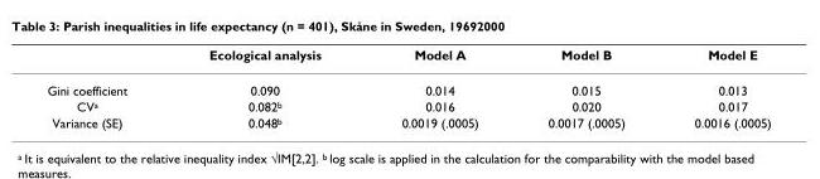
<table><thead><tr><td></td><td>Ecological analysis</td><td>Model A</td><td>Model B</td><td>Model E</td></tr></thead><tbody><tr><td>Gini coefficient</td><td>0.090</td><td>0.014</td><td>0.015</td><td>0.013</td></tr><tr><td>CV<sup>a</sup></td><td>0.082<sup>b</sup></td><td>0.016</td><td>0.020</td><td>0.017</td></tr><tr><td>Variance (SE)</td><td>0.048<sup>b</sup></td><td>0.0019 (.0005)</td><td>0.0017 (.0005)</td><td>0.0016 (.0005)</td></tr></tbody></table>